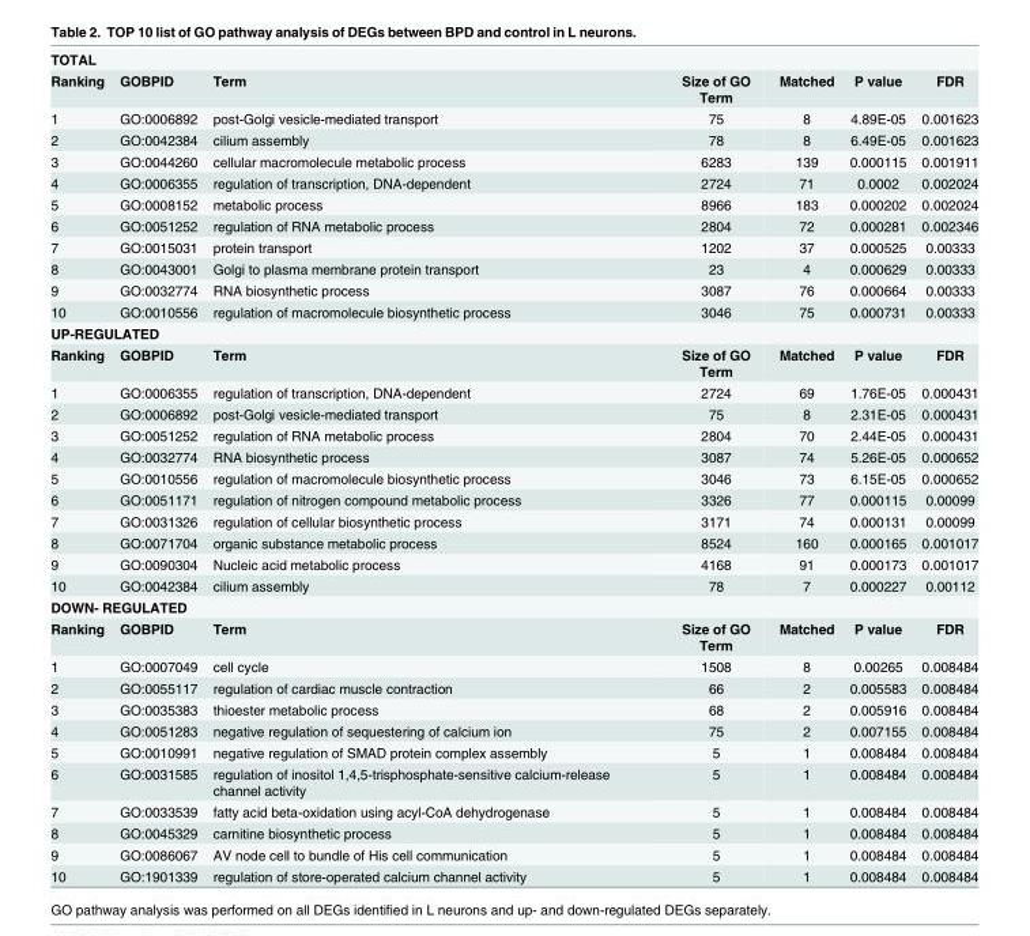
<table><tbody><tr><td colspan="7">TOTAL</td></tr><tr><td>Ranking</td><td>GOBPID</td><td>Term</td><td>Size of GO Term</td><td>Matched</td><td>P value</td><td>FDR</td></tr><tr><td>1</td><td>GO:0006892</td><td>post-Golgi vesicle-mediated transport</td><td>75</td><td>8</td><td>4.89E-05</td><td>0.001623</td></tr><tr><td>2</td><td>GO:0042384</td><td>cilium assembly</td><td>78</td><td>8</td><td>6.49E-05</td><td>0.001623</td></tr><tr><td>3</td><td>GO:0044260</td><td>cellular macromolecule metabolic process</td><td>6283</td><td>139</td><td>0.000115</td><td>0.001911</td></tr><tr><td>4</td><td>GO:0006355</td><td>regulation of transcription, DNA-dependent</td><td>2724</td><td>71</td><td>0.0002</td><td>0.002024</td></tr><tr><td>5</td><td>GO:0008152</td><td>metabolic process</td><td>8966</td><td>183</td><td>0.000202</td><td>0.002024</td></tr><tr><td>6</td><td>GO:0051252</td><td>regulation of RNA metabolic process</td><td>2804</td><td>72</td><td>0.000281</td><td>0.002346</td></tr><tr><td>7</td><td>GO:0015031</td><td>protein transport</td><td>1202</td><td>37</td><td>0.000525</td><td>0.00333</td></tr><tr><td>8</td><td>GO:0043001</td><td>Golgi to plasma membrane protein transport</td><td>23</td><td>4</td><td>0.000629</td><td>0.00333</td></tr><tr><td>9</td><td>GO:0032774</td><td>RNA biosynthetic process</td><td>3087</td><td>76</td><td>0.000664</td><td>0.00333</td></tr><tr><td>10</td><td>GO:0010556</td><td>regulation of macromolecule biosynthetic process</td><td>3046</td><td>75</td><td>0.000731</td><td>0.00333</td></tr><tr><td colspan="7">UP-REGULATED</td></tr><tr><td>Ranking</td><td>GOBPID</td><td>Term</td><td>Size of GO Term</td><td>Matched</td><td>P value</td><td>FDR</td></tr><tr><td>1</td><td>GO:0006355</td><td>regulation of transcription, DNA-dependent</td><td>2724</td><td>69</td><td>1.76E-05</td><td>0.000431</td></tr><tr><td>2</td><td>GO:0006892</td><td>post-Golgi vesicle-mediated transport</td><td>75</td><td>8</td><td>2.31E-05</td><td>0.000431</td></tr><tr><td>3</td><td>GO:0051252</td><td>regulation of RNA metabolic process</td><td>2804</td><td>70</td><td>2.44E-05</td><td>0.000431</td></tr><tr><td>4</td><td>GO:0032774</td><td>RNA biosynthetic process</td><td>3087</td><td>74</td><td>5.26E-05</td><td>0.000652</td></tr><tr><td>5</td><td>GO:0010556</td><td>regulation of macromolecule biosynthetic process</td><td>3046</td><td>73</td><td>6.15E-05</td><td>0.000652</td></tr><tr><td>6</td><td>GO:0051171</td><td>regulation of nitrogen compound metabolic process</td><td>3326</td><td>77</td><td>0.000115</td><td>0.00099</td></tr><tr><td>7</td><td>GO:0031326</td><td>regulation of cellular biosynthetic process</td><td>3171</td><td>74</td><td>0.000131</td><td>0.00099</td></tr><tr><td>8</td><td>GO:0071704</td><td>organic substance metabolic process</td><td>8524</td><td>160</td><td>0.000165</td><td>0.001017</td></tr><tr><td>9</td><td>GO:0090304</td><td>Nucleic acid metabolic process</td><td>4168</td><td>91</td><td>0.000173</td><td>0.001017</td></tr><tr><td>10</td><td>GO:0042384</td><td>cilium assembly</td><td>78</td><td>7</td><td>0.000227</td><td>0.00112</td></tr><tr><td colspan="7">DOWN- REGULATED</td></tr><tr><td>Ranking</td><td>GOBPID</td><td>Term</td><td>Size of GO Term</td><td>Matched</td><td>P value</td><td>FDR</td></tr><tr><td>1</td><td>GO:0007049</td><td>cell cycle</td><td>1508</td><td>8</td><td>0.00265</td><td>0.008484</td></tr><tr><td>2</td><td>GO:0055117</td><td>regulation of cardiac muscle contraction</td><td>66</td><td>2</td><td>0.005583</td><td>0.008484</td></tr><tr><td>3</td><td>GO:0035383</td><td>thioester metabolic process</td><td>68</td><td>2</td><td>0.005916</td><td>0.008484</td></tr><tr><td>4</td><td>GO:0051283</td><td>negative regulation of sequestering of calcium ion</td><td>75</td><td>2</td><td>0.007155</td><td>0.008484</td></tr><tr><td>5</td><td>GO:0010991</td><td>negative regulation of SMAD protein complex assembly</td><td>5</td><td>1</td><td>0.008484</td><td>0.008484</td></tr><tr><td>6</td><td>GO:0031585</td><td>regulation of inositol 1,4,5-trisphosphate-sensitive calcium-release channel activity</td><td>5</td><td>1</td><td>0.008484</td><td>0.008484</td></tr><tr><td>7</td><td>GO:0033539</td><td>fatty acid beta-oxidation using acyl-CoA dehydrogenase</td><td>5</td><td>1</td><td>0.008484</td><td>0.008484</td></tr><tr><td>8</td><td>GO:0045329</td><td>carnitine biosynthetic process</td><td>5</td><td>1</td><td>0.008484</td><td>0.008484</td></tr><tr><td>9</td><td>GO:0086067</td><td>AV node cell to bundle of His cell communication</td><td>5</td><td>1</td><td>0.008484</td><td>0.008484</td></tr><tr><td>10</td><td>GO:1901339</td><td>regulation of store-operated calcium channel activity</td><td>5</td><td>1</td><td>0.008484</td><td>0.008484</td></tr></tbody></table>